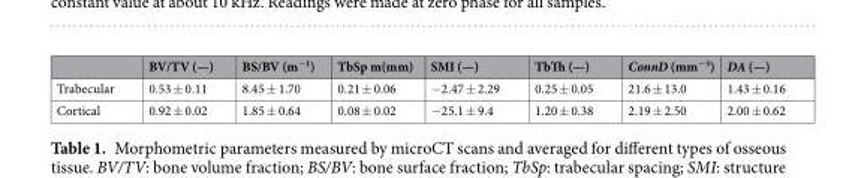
<table><thead><tr><td></td><td>BV/TV (—)</td><td>BS/BV (m<sup>−1</sup>)</td><td>TbSp m(mm)</td><td>SMI (—)</td><td>TbTh (—)</td><td>ConnD (mm<sup>−3</sup>)</td><td>DA (—)</td></tr></thead><tbody><tr><td>Trabecular</td><td>0.53 ± 0.11</td><td>8.45 ± 1.70</td><td>0.21 ± 0.06</td><td>−2.47 ± 2.29</td><td>0.25 ± 0.05</td><td>21.6 ± 13.0</td><td>1.43 ± 0.16</td></tr><tr><td>Cortical</td><td>0.92 ± 0.02</td><td>1.85 ± 0.64</td><td>0.08 ± 0.02</td><td>−25.1 ± 9.4</td><td>1.20 ± 0.38</td><td>2.19 ± 2.50</td><td>2.00 ± 0.62</td></tr></tbody></table>